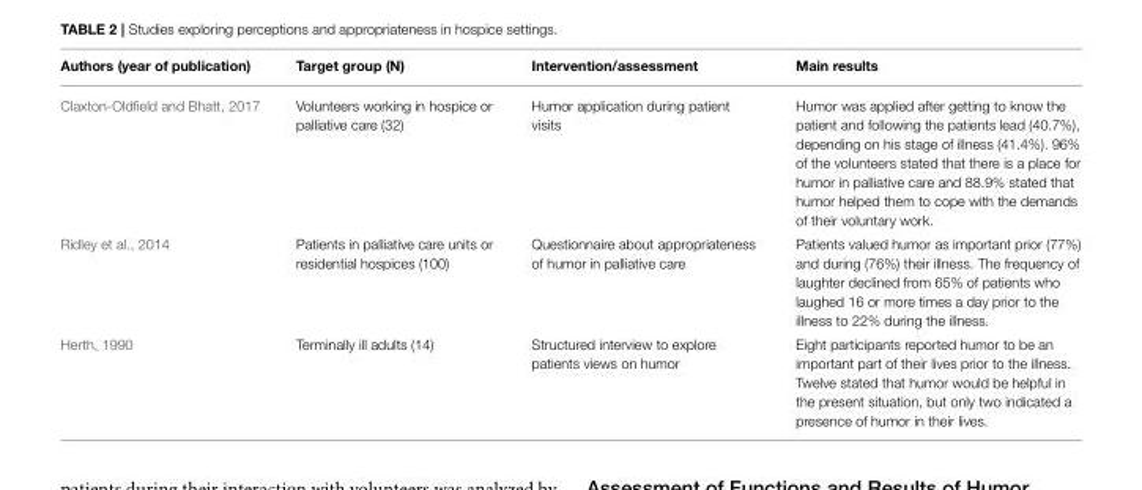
<table><thead><tr><td>Authors (year of publication)</td><td>Target group (N)</td><td>Intervention/assessment</td><td>Main results</td></tr></thead><tbody><tr><td>Claxton-Oldfield and Bhatt, 2017</td><td>Volunteers working in hospice or palliative care (32)</td><td>Humor application during patient visits</td><td>Humor was applied after getting to know the patient and following the patients lead (40.7%), depending on his stage of illness (41.4%). 96% of the volunteers stated that there is a place for humor in palliative care and 88.9% stated that humor helped them to cope with the demands of their voluntary work.</td></tr><tr><td>Ridley et al., 2014</td><td>Patients in palliative care units or residential hospices (100)</td><td>Questionnaire about appropriateness of humor in palliative care</td><td>Patients valued humor as important prior (77%) and during (76%) their illness. The frequency of laughter declined from 65% of patients who laughed 16 or more times a day prior to the illness to 22% during the illness.</td></tr><tr><td>Herth, 1990</td><td>Terminally ill adults (14)</td><td>Structured interview to explore patients views on humor</td><td>Eight participants reported humor to be an important part of their lives prior to the illness. Twelve stated that humor would be helpful in the present situation, but only two indicated a presence of humor in their lives.</td></tr></tbody></table>